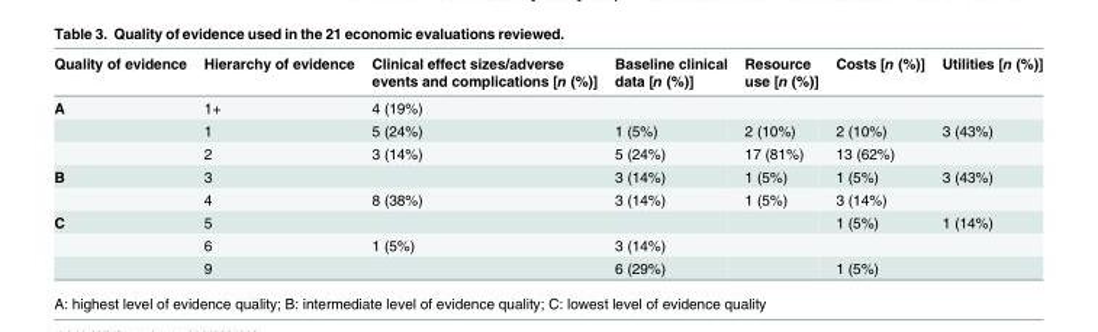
<table><thead><tr><td>Quality of evidence</td><td>Hierarchy of evidence</td><td>Clinical effect sizes/adverse events and complications [n (%)]</td><td>Baseline clinical data [n (%)]</td><td>Resource use [n (%)]</td><td>Costs [n (%)]</td><td>Utilities [n (%)]</td></tr></thead><tbody><tr><td rowspan="3">A</td><td>1+</td><td>4 (19%)</td><td></td><td></td><td></td><td></td></tr><tr><td>1</td><td>5 (24%)</td><td>1 (5%)</td><td>2 (10%)</td><td>2 (10%)</td><td>3 (43%)</td></tr><tr><td>2</td><td>3 (14%)</td><td>5 (24%)</td><td>17 (81%)</td><td>13 (62%)</td><td></td></tr><tr><td rowspan="2">B</td><td>3</td><td></td><td>3 (14%)</td><td>1 (5%)</td><td>1 (5%)</td><td>3 (43%)</td></tr><tr><td>4</td><td>8 (38%)</td><td>3 (14%)</td><td>1 (5%)</td><td>3 (14%)</td><td></td></tr><tr><td rowspan="3">C</td><td>5</td><td></td><td></td><td></td><td>1 (5%)</td><td>1 (14%)</td></tr><tr><td>6</td><td>1 (5%)</td><td>3 (14%)</td><td></td><td></td><td></td></tr><tr><td>9</td><td></td><td>6 (29%)</td><td></td><td>1 (5%)</td><td></td></tr></tbody></table>